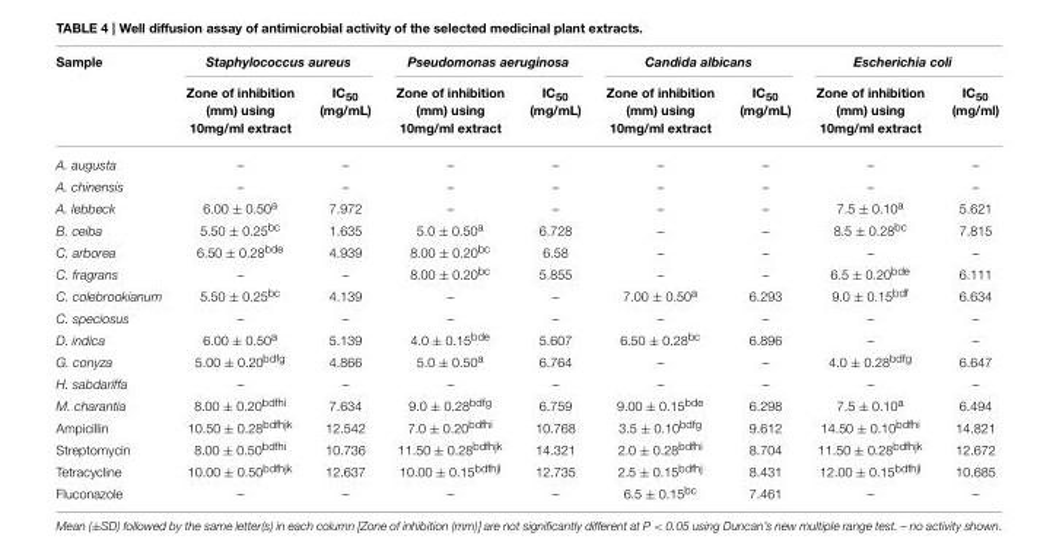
<table><thead><tr><td rowspan="2">Sample</td><td colspan="2">Staphylococcus aureus</td><td colspan="2">Pseudomonas aeruginosa</td><td colspan="2">Candida albicans</td><td colspan="2">Escherichia coli</td></tr><tr><td>Zone of inhibition (mm) using 10mg/ml extract</td><td>IC<sub>50</sub> (mg/mL)</td><td>Zone of inhibition (mm) using 10mg/ml extract</td><td>IC<sub>50</sub> (mg/mL)</td><td>Zone of inhibition (mm) using 10mg/ml extract</td><td>IC<sub>50</sub> (mg/mL)</td><td>Zone of inhibition (mm) using 10mg/ml extract</td><td>IC<sub>50</sub> (mg/ml)</td></tr></thead><tbody><tr><td>A. augusta</td><td>–</td><td>–</td><td>–</td><td>–</td><td>–</td><td>–</td><td>–</td><td>–</td></tr><tr><td>A. chinensis</td><td>–</td><td>–</td><td>–</td><td>–</td><td>–</td><td>–</td><td>–</td><td>–</td></tr><tr><td>A. lebbeck</td><td>6.00 ± 0.50<sup>a</sup></td><td>7.972</td><td>–</td><td>–</td><td>–</td><td>–</td><td>7.5 ± 0.10<sup>a</sup></td><td>5.621</td></tr><tr><td>B. ceiba</td><td>5.50 ± 0.25<sup>bc</sup></td><td>1.635</td><td>5.0 ± 0.50<sup>a</sup></td><td>6.728</td><td>–</td><td>–</td><td>8.5 ± 0.28<sup>bc</sup></td><td>7.815</td></tr><tr><td>C. arborea</td><td>6.50 ± 0.28<sup>bde</sup></td><td>4.939</td><td>8.00 ± 0.20<sup>bc</sup></td><td>6.58</td><td>–</td><td>–</td><td>–</td><td>–</td></tr><tr><td>C. fragrans</td><td>–</td><td>–</td><td>8.00 ± 0.20<sup>bc</sup></td><td>5.855</td><td>–</td><td>–</td><td>6.5 ± 0.20<sup>bde</sup></td><td>6.111</td></tr><tr><td>C. colebrookianum</td><td>5.50 ± 0.25<sup>bc</sup></td><td>4.139</td><td>–</td><td>–</td><td>7.00 ± 0.50<sup>a</sup></td><td>6.293</td><td>9.0 ± 0.15<sup>bdf</sup></td><td>6.634</td></tr><tr><td>C. speciosus</td><td>–</td><td>–</td><td>–</td><td>–</td><td>–</td><td>–</td><td>–</td><td>–</td></tr><tr><td>D. indica</td><td>6.00 ± 0.50<sup>a</sup></td><td>5.139</td><td>4.0 ± 0.15<sup>bde</sup></td><td>5.607</td><td>6.50 ± 0.28<sup>bc</sup></td><td>6.896</td><td>–</td><td>–</td></tr><tr><td>G. conyza</td><td>5.00 ± 0.20<sup>bdfg</sup></td><td>4.866</td><td>5.0 ± 0.50<sup>a</sup></td><td>6.764</td><td>–</td><td>–</td><td>4.0 ± 0.28<sup>bdfg</sup></td><td>6.647</td></tr><tr><td>H. sabdariffa</td><td>–</td><td>–</td><td>–</td><td>–</td><td>–</td><td>–</td><td>–</td><td>–</td></tr><tr><td>M. charantia</td><td>8.00 ± 0.20<sup>bdfhi</sup></td><td>7.634</td><td>9.0 ± 0.28<sup>bdfg</sup></td><td>6.759</td><td>9.00 ± 0.15<sup>bde</sup></td><td>6.298</td><td>7.5 ± 0.10<sup>a</sup></td><td>6.494</td></tr><tr><td>Ampicillin</td><td>10.50 ± 0.28<sup>bdfhjk</sup></td><td>12.542</td><td>7.0 ± 0.20<sup>bdfhi</sup></td><td>10.768</td><td>3.5 ± 0.10<sup>bdfg</sup></td><td>9.612</td><td>14.50 ± 0.10<sup>bdfhi</sup></td><td>14.821</td></tr><tr><td>Streptomycin</td><td>8.00 ± 0.50<sup>bdfhi</sup></td><td>10.736</td><td>11.50 ± 0.28<sup>bdfhjk</sup></td><td>14.321</td><td>2.0 ± 0.28<sup>bdfhi</sup></td><td>8.704</td><td>11.50 ± 0.28<sup>bdfhjk</sup></td><td>12.672</td></tr><tr><td>Tetracycline</td><td>10.00 ± 0.50<sup>bdfhjk</sup></td><td>12.637</td><td>10.00 ± 0.15<sup>bdfhjl</sup></td><td>12.735</td><td>2.5 ± 0.15<sup>bdfhj</sup></td><td>8.431</td><td>12.00 ± 0.15<sup>bdfhjl</sup></td><td>10.685</td></tr><tr><td>Fluconazole</td><td>–</td><td>–</td><td>–</td><td>–</td><td>6.5 ± 0.15<sup>bc</sup></td><td>7.461</td><td>–</td><td>–</td></tr></tbody></table>